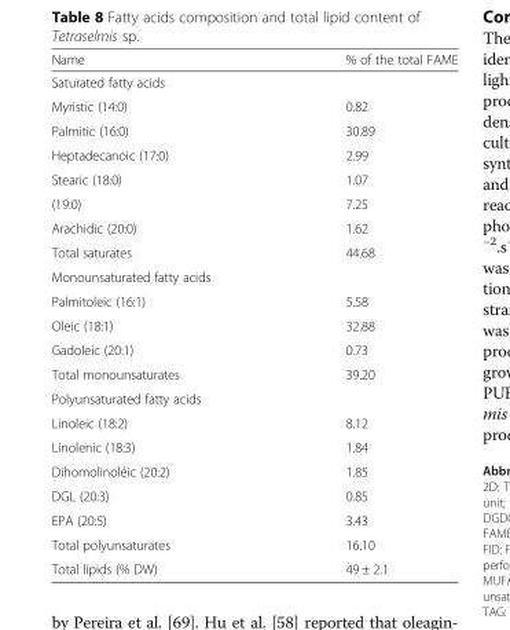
<table><thead><tr><td>Name</td><td>% of the total FAME</td></tr></thead><tbody><tr><td colspan="2">Saturated fatty acids</td></tr><tr><td>Myristic (14:0)</td><td>0.82</td></tr><tr><td>Palmitic (16:0)</td><td>30.89</td></tr><tr><td>Heptadecanoic (17:0)</td><td>2.99</td></tr><tr><td>Stearic (18:0)</td><td>1.07</td></tr><tr><td>(19:0)</td><td>7.25</td></tr><tr><td>Arachidic (20:0)</td><td>1.62</td></tr><tr><td>Total saturates</td><td>44.68</td></tr><tr><td colspan="2">Monounsaturated fatty acids</td></tr><tr><td>Palmitoleic (16:1)</td><td>5.58</td></tr><tr><td>Oleic (18:1)</td><td>32.88</td></tr><tr><td>Gadoleic (20:1)</td><td>0.73</td></tr><tr><td>Total monounsaturates</td><td>39.20</td></tr><tr><td colspan="2">Polyunsaturated fatty acids</td></tr><tr><td>Linoleic (18:2)</td><td>8.12</td></tr><tr><td>Linolenic (18:3)</td><td>1.84</td></tr><tr><td>Dihomolinoléic (20:2)</td><td>1.85</td></tr><tr><td>DGL (20:3)</td><td>0.85</td></tr><tr><td>EPA (20:5)</td><td>3.43</td></tr><tr><td>Total polyunsaturates</td><td>16.10</td></tr><tr><td>Total lipids (% DW)</td><td>49 ± 2.1</td></tr></tbody></table>